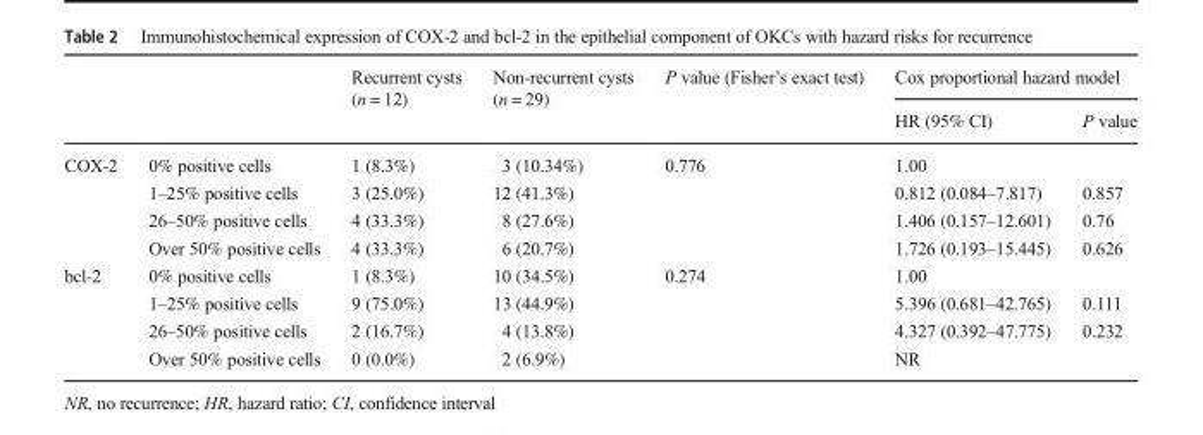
<table><thead><tr><td rowspan="2"></td><td rowspan="2"></td><td rowspan="2">Recurrent cysts (n = 12)</td><td rowspan="2">Non-recurrent cysts (n = 29)</td><td rowspan="2">P value (Fisher’s exact test)</td><td colspan="2">Cox proportional hazard model</td></tr><tr><td>HR (95% CI)</td><td>P value</td></tr></thead><tbody><tr><td rowspan="4">COX-2</td><td>0% positive cells</td><td>1 (8.3%)</td><td>3 (10.34%)</td><td rowspan="4">0.776</td><td>1.00</td><td></td></tr><tr><td>1–25% positive cells</td><td>3 (25.0%)</td><td>12 (41.3%)</td><td>0.812 (0.084–7.817)</td><td>0.857</td></tr><tr><td>26–50% positive cells</td><td>4 (33.3%)</td><td>8 (27.6%)</td><td>1.406 (0.157–12.601)</td><td>0.76</td></tr><tr><td>Over 50% positive cells</td><td>4 (33.3%)</td><td>6 (20.7%)</td><td>1.726 (0.193–15.445)</td><td>0.626</td></tr><tr><td rowspan="4">bcl-2</td><td>0% positive cells</td><td>1 (8.3%)</td><td>10 (34.5%)</td><td rowspan="4">0.274</td><td>1.00</td><td></td></tr><tr><td>1–25% positive cells</td><td>9 (75.0%)</td><td>13 (44.9%)</td><td>5.396 (0.681–42.765)</td><td>0.111</td></tr><tr><td>26–50% positive cells</td><td>2 (16.7%)</td><td>4 (13.8%)</td><td>4.327 (0.392–47.775)</td><td>0.232</td></tr><tr><td>Over 50% positive cells</td><td>0 (0.0%)</td><td>2 (6.9%)</td><td colspan="2">NR</td></tr></tbody></table>